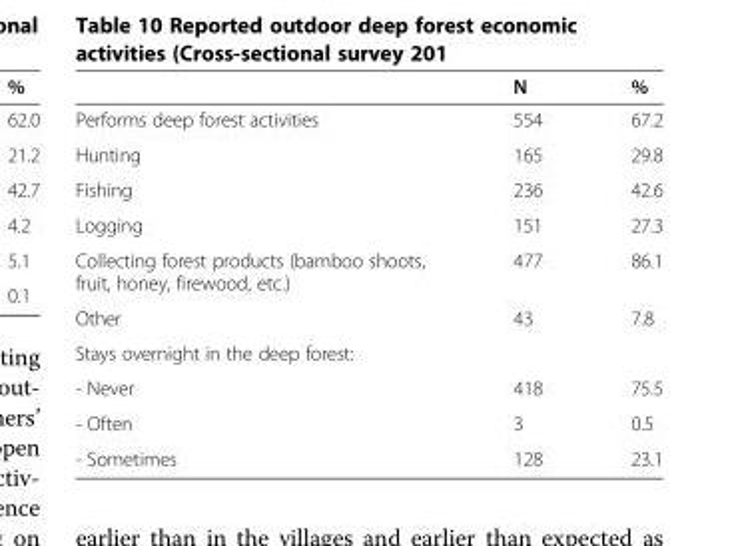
<table><thead><tr><td></td><td>N</td><td>%</td></tr></thead><tbody><tr><td>Performs deep forest activities</td><td>554</td><td>67.2</td></tr><tr><td>Hunting</td><td>165</td><td>29.8</td></tr><tr><td>Fishing</td><td>236</td><td>42.6</td></tr><tr><td>Logging</td><td>151</td><td>27.3</td></tr><tr><td>Collecting forest products (bamboo shoots, fruit, honey, firewood, etc.)</td><td>477</td><td>86.1</td></tr><tr><td>Other</td><td>43</td><td>7.8</td></tr><tr><td colspan="3">Stays overnight in the deep forest:</td></tr><tr><td>- Never</td><td>418</td><td>75.5</td></tr><tr><td>- Often</td><td>3</td><td>0.5</td></tr><tr><td>- Sometimes</td><td>128</td><td>23.1</td></tr></tbody></table>